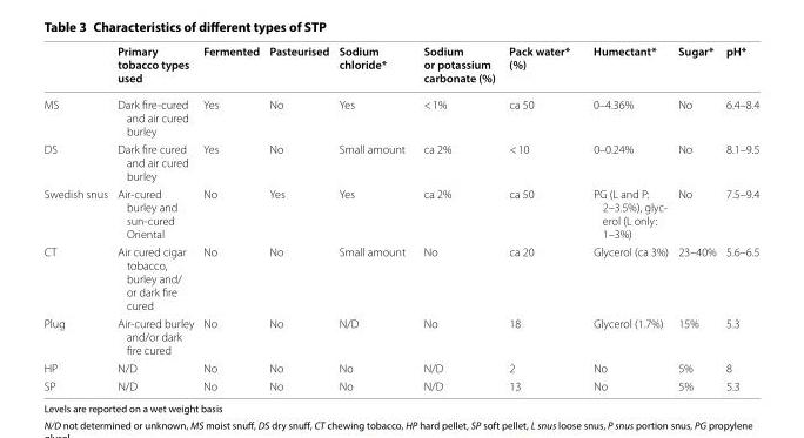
<table><thead><tr><td></td><td>Primary tobacco types used</td><td>Fermented</td><td>Pasteurised</td><td>Sodium chloride*</td><td>Sodium or potassium carbonate (%)</td><td>Pack water* (%)</td><td>Humectant*</td><td>Sugar*</td><td>pH*</td></tr></thead><tbody><tr><td>MS</td><td>Dark fire-cured and air cured burley</td><td>Yes</td><td>No</td><td>Yes</td><td>&lt; 1%</td><td>ca 50</td><td>0–4.36%</td><td>No</td><td>6.4–8.4</td></tr><tr><td>DS</td><td>Dark fire cured and air cured burley</td><td>Yes</td><td>No</td><td>Small amount</td><td>ca 2%</td><td>&lt; 10</td><td>0–0.24%</td><td>No</td><td>8.1–9.5</td></tr><tr><td>Swedish snus</td><td>Air-cured burley and sun-cured Oriental</td><td>No</td><td>Yes</td><td>Yes</td><td>ca 2%</td><td>ca 50</td><td>PG (L and P: 2–3.5%), glyc- erol (L only: 1–3%)</td><td>No</td><td>7.5–9.4</td></tr><tr><td>CT</td><td>Air cured cigar tobacco, burley and/ or dark fire cured</td><td>No</td><td>No</td><td>Small amount</td><td>No</td><td>ca 20</td><td>Glycerol (ca 3%)</td><td>23–40%</td><td>5.6–6.5</td></tr><tr><td>Plug</td><td>Air-cured burley and/or dark fire cured</td><td>No</td><td>No</td><td>N/D</td><td>No</td><td>18</td><td>Glycerol (1.7%)</td><td>15%</td><td>5.3</td></tr><tr><td>HP</td><td>N/D</td><td>No</td><td>No</td><td>No</td><td>N/D</td><td>2</td><td>No</td><td>5%</td><td>8</td></tr><tr><td>SP</td><td>N/D</td><td>No</td><td>No</td><td>No</td><td>N/D</td><td>13</td><td>No</td><td>5%</td><td>5.3</td></tr></tbody></table>